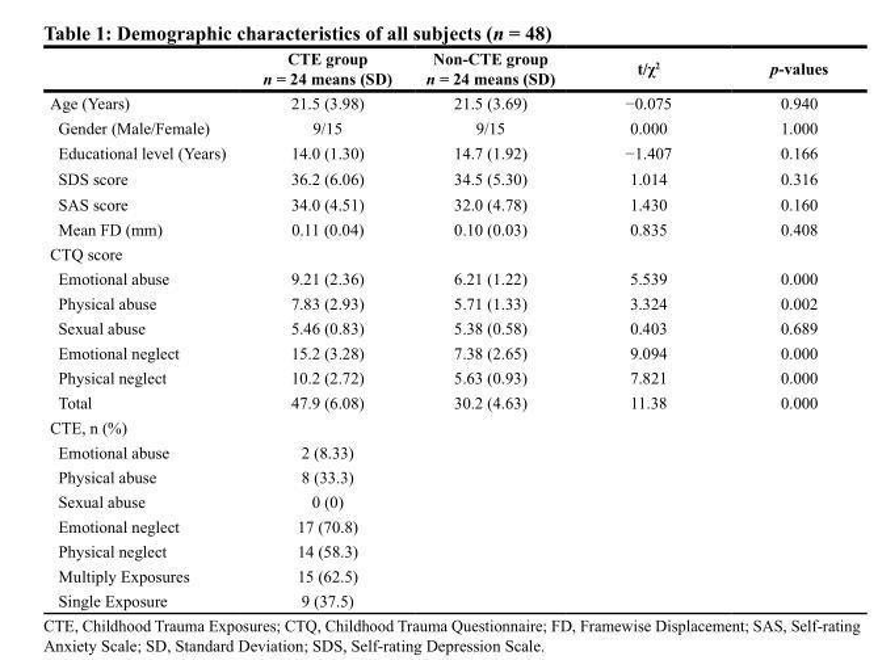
<table><thead><tr><td></td><td>CTE group n = 24 means (SD)</td><td>Non-CTE group n = 24 means (SD)</td><td>t/χ<sup>2</sup></td><td>p-values</td></tr></thead><tbody><tr><td>Age (Years)</td><td>21.5 (3.98)</td><td>21.5 (3.69)</td><td>−0.075</td><td>0.940</td></tr><tr><td>Gender (Male/Female)</td><td>9/15</td><td>9/15</td><td>0.000</td><td>1.000</td></tr><tr><td>Educational level (Years)</td><td>14.0 (1.30)</td><td>14.7 (1.92)</td><td>−1.407</td><td>0.166</td></tr><tr><td>SDS score</td><td>36.2 (6.06)</td><td>34.5 (5.30)</td><td>1.014</td><td>0.316</td></tr><tr><td>SAS score</td><td>34.0 (4.51)</td><td>32.0 (4.78)</td><td>1.430</td><td>0.160</td></tr><tr><td>Mean FD (mm)</td><td>0.11 (0.04)</td><td>0.10 (0.03)</td><td>0.835</td><td>0.408</td></tr><tr><td colspan="5">CTQ score</td></tr><tr><td>Emotional abuse</td><td>9.21 (2.36)</td><td>6.21 (1.22)</td><td>5.539</td><td>0.000</td></tr><tr><td>Physical abuse</td><td>7.83 (2.93)</td><td>5.71 (1.33)</td><td>3.324</td><td>0.002</td></tr><tr><td>Sexual abuse</td><td>5.46 (0.83)</td><td>5.38 (0.58)</td><td>0.403</td><td>0.689</td></tr><tr><td>Emotional neglect</td><td>15.2 (3.28)</td><td>7.38 (2.65)</td><td>9.094</td><td>0.000</td></tr><tr><td>Physical neglect</td><td>10.2 (2.72)</td><td>5.63 (0.93)</td><td>7.821</td><td>0.000</td></tr><tr><td>Total</td><td>47.9 (6.08)</td><td>30.2 (4.63)</td><td>11.38</td><td>0.000</td></tr><tr><td colspan="5">CTE, n (%)</td></tr><tr><td>Emotional abuse</td><td>2 (8.33)</td><td></td><td></td><td></td></tr><tr><td>Physical abuse</td><td>8 (33.3)</td><td></td><td></td><td></td></tr><tr><td>Sexual abuse</td><td>0 (0)</td><td></td><td></td><td></td></tr><tr><td>Emotional neglect</td><td>17 (70.8)</td><td></td><td></td><td></td></tr><tr><td>Physical neglect</td><td>14 (58.3)</td><td></td><td></td><td></td></tr><tr><td>Multiply Exposures</td><td>15 (62.5)</td><td></td><td></td><td></td></tr><tr><td>Single Exposure</td><td>9 (37.5)</td><td></td><td></td><td></td></tr></tbody></table>